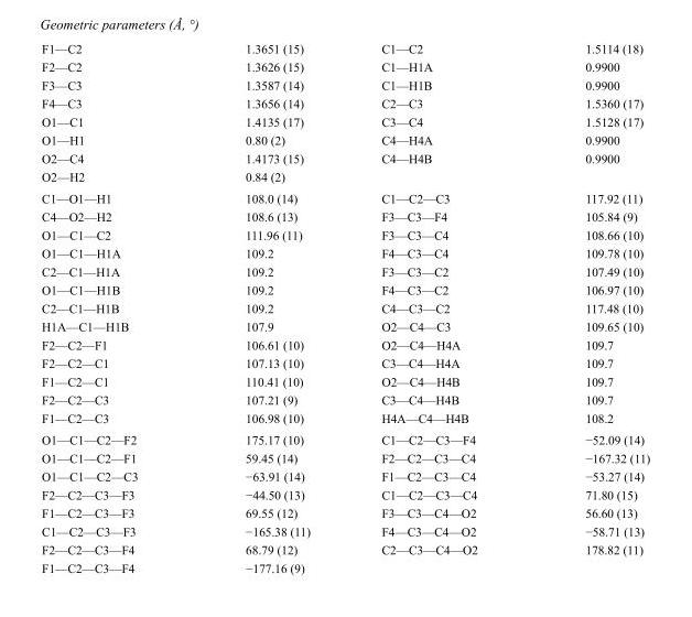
<table><tbody><tr><td>F1—C2</td><td>1.3651 (15)</td><td>C1—C2</td><td>1.5114 (18)</td></tr><tr><td>F2—C2</td><td>1.3626 (15)</td><td>C1—H1A</td><td>0.9900</td></tr><tr><td>F3—C3</td><td>1.3587 (14)</td><td>C1—H1B</td><td>0.9900</td></tr><tr><td>F4—C3</td><td>1.3656 (14)</td><td>C2—C3</td><td>1.5360 (17)</td></tr><tr><td>O1—C1</td><td>1.4135 (17)</td><td>C3—C4</td><td>1.5128 (17)</td></tr><tr><td>O1—H1</td><td>0.80 (2)</td><td>C4—H4A</td><td>0.9900</td></tr><tr><td>O2—C4</td><td>1.4173 (15)</td><td>C4—H4B</td><td>0.9900</td></tr><tr><td>O2—H2</td><td>0.84 (2)</td><td></td><td></td></tr><tr><td>C1—O1—H1</td><td>108.0 (14)</td><td>C1—C2—C3</td><td>117.92 (11)</td></tr><tr><td>C4—O2—H2</td><td>108.6 (13)</td><td>F3—C3—F4</td><td>105.84 (9)</td></tr><tr><td>O1—C1—C2</td><td>111.96 (11)</td><td>F3—C3—C4</td><td>108.66 (10)</td></tr><tr><td>O1—C1—H1A</td><td>109.2</td><td>F4—C3—C4</td><td>109.78 (10)</td></tr><tr><td>C2—C1—H1A</td><td>109.2</td><td>F3—C3—C2</td><td>107.49 (10)</td></tr><tr><td>O1—C1—H1B</td><td>109.2</td><td>F4—C3—C2</td><td>106.97 (10)</td></tr><tr><td>C2—C1—H1B</td><td>109.2</td><td>C4—C3—C2</td><td>117.48 (10)</td></tr><tr><td>H1A—C1—H1B</td><td>107.9</td><td>O2—C4—C3</td><td>109.65 (10)</td></tr><tr><td>F2—C2—F1</td><td>106.61 (10)</td><td>O2—C4—H4A</td><td>109.7</td></tr><tr><td>F2—C2—C1</td><td>107.13 (10)</td><td>C3—C4—H4A</td><td>109.7</td></tr><tr><td>F1—C2—C1</td><td>110.41 (10)</td><td>O2—C4—H4B</td><td>109.7</td></tr><tr><td>F2—C2—C3</td><td>107.21 (9)</td><td>C3—C4—H4B</td><td>109.7</td></tr><tr><td>F1—C2—C3</td><td>106.98 (10)</td><td>H4A—C4—H4B</td><td>108.2</td></tr><tr><td>O1—C1—C2—F2</td><td>175.17 (10)</td><td>C1—C2—C3—F4</td><td>−52.09 (14)</td></tr><tr><td>O1—C1—C2—F1</td><td>59.45 (14)</td><td>F2—C2—C3—C4</td><td>−167.32 (11)</td></tr><tr><td>O1—C1—C2—C3</td><td>−63.91 (14)</td><td>F1—C2—C3—C4</td><td>−53.27 (14)</td></tr><tr><td>F2—C2—C3—F3</td><td>−44.50 (13)</td><td>C1—C2—C3—C4</td><td>71.80 (15)</td></tr><tr><td>F1—C2—C3—F3</td><td>69.55 (12)</td><td>F3—C3—C4—O2</td><td>56.60 (13)</td></tr><tr><td>C1—C2—C3—F3</td><td>−165.38 (11)</td><td>F4—C3—C4—O2</td><td>−58.71 (13)</td></tr><tr><td>F2—C2—C3—F4</td><td>68.79 (12)</td><td>C2—C3—C4—O2</td><td>178.82 (11)</td></tr><tr><td>F1—C2—C3—F4</td><td>−177.16 (9)</td><td></td><td></td></tr></tbody></table>